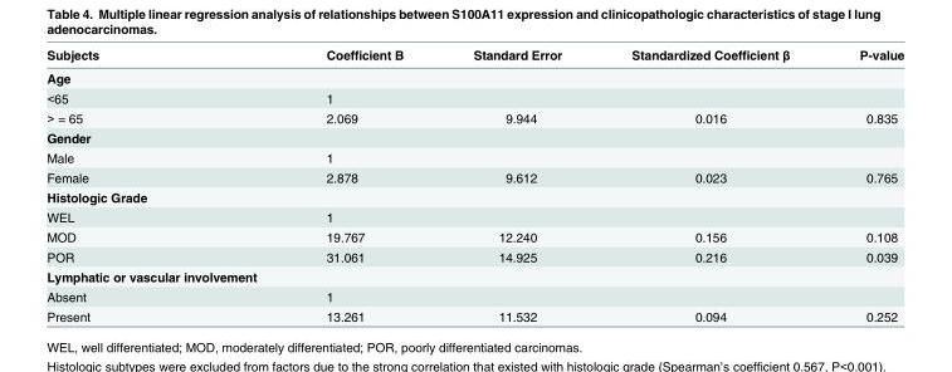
<table><thead><tr><td>Subjects</td><td>Coefficient B</td><td>Standard Error</td><td>Standardized Coefficient β</td><td>P-value</td></tr></thead><tbody><tr><td colspan="5">Age</td></tr><tr><td>&lt;65</td><td>1</td><td></td><td></td><td></td></tr><tr><td>&gt; = 65</td><td>2.069</td><td>9.944</td><td>0.016</td><td>0.835</td></tr><tr><td colspan="5">Gender</td></tr><tr><td>Male</td><td>1</td><td></td><td></td><td></td></tr><tr><td>Female</td><td>2.878</td><td>9.612</td><td>0.023</td><td>0.765</td></tr><tr><td colspan="5">Histologic Grade</td></tr><tr><td>WEL</td><td>1</td><td></td><td></td><td></td></tr><tr><td>MOD</td><td>19.767</td><td>12.240</td><td>0.156</td><td>0.108</td></tr><tr><td>POR</td><td>31.061</td><td>14.925</td><td>0.216</td><td>0.039</td></tr><tr><td colspan="5">Lymphatic or vascular involvement</td></tr><tr><td>Absent</td><td>1</td><td></td><td></td><td></td></tr><tr><td>Present</td><td>13.261</td><td>11.532</td><td>0.094</td><td>0.252</td></tr></tbody></table>